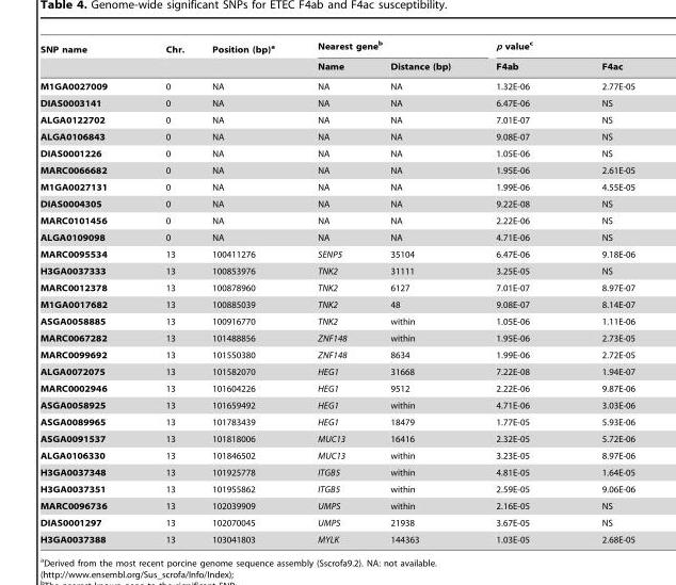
<table><thead><tr><td rowspan="2">SNP name</td><td rowspan="2">Chr.</td><td rowspan="2">Position (bp)<sup>a</sup></td><td colspan="2">Nearest gene<sup>b</sup></td><td colspan="2">p value<sup>c</sup></td></tr><tr><td>Name</td><td>Distance (bp)</td><td>F4ab</td><td>F4ac</td></tr></thead><tbody><tr><td>M1GA0027009</td><td>0</td><td>NA</td><td>NA</td><td>NA</td><td>1.32E-06</td><td>2.77E-05</td></tr><tr><td>DIAS0003141</td><td>0</td><td>NA</td><td>NA</td><td>NA</td><td>6.47E-06</td><td>NS</td></tr><tr><td>ALGA0122702</td><td>0</td><td>NA</td><td>NA</td><td>NA</td><td>7.01E-07</td><td>NS</td></tr><tr><td>ALGA0106843</td><td>0</td><td>NA</td><td>NA</td><td>NA</td><td>9.08E-07</td><td>NS</td></tr><tr><td>DIAS0001226</td><td>0</td><td>NA</td><td>NA</td><td>NA</td><td>1.05E-06</td><td>NS</td></tr><tr><td>MARC0066682</td><td>0</td><td>NA</td><td>NA</td><td>NA</td><td>1.95E-06</td><td>2.61E-05</td></tr><tr><td>M1GA0027131</td><td>0</td><td>NA</td><td>NA</td><td>NA</td><td>1.99E-06</td><td>4.55E-05</td></tr><tr><td>DIAS0004305</td><td>0</td><td>NA</td><td>NA</td><td>NA</td><td>9.22E-08</td><td>NS</td></tr><tr><td>MARC0101456</td><td>0</td><td>NA</td><td>NA</td><td>NA</td><td>2.22E-06</td><td>NS</td></tr><tr><td>ALGA0109098</td><td>0</td><td>NA</td><td>NA</td><td>NA</td><td>4.71E-06</td><td>NS</td></tr><tr><td>MARC0095534</td><td>13</td><td>100411276</td><td>SENP5</td><td>35104</td><td>6.47E-06</td><td>9.18E-06</td></tr><tr><td>H3GA0037333</td><td>13</td><td>100853976</td><td>TNK2</td><td>31111</td><td>3.25E-05</td><td>NS</td></tr><tr><td>MARC0012378</td><td>13</td><td>100878960</td><td>TNK2</td><td>6127</td><td>7.01E-07</td><td>8.97E-07</td></tr><tr><td>M1GA0017682</td><td>13</td><td>100885039</td><td>TNK2</td><td>48</td><td>9.08E-07</td><td>8.14E-07</td></tr><tr><td>ASGA0058885</td><td>13</td><td>100916770</td><td>TNK2</td><td>within</td><td>1.05E-06</td><td>1.11E-06</td></tr><tr><td>MARC0067282</td><td>13</td><td>101488856</td><td>ZNF148</td><td>within</td><td>1.95E-06</td><td>2.73E-05</td></tr><tr><td>MARC0099692</td><td>13</td><td>101550380</td><td>ZNF148</td><td>8634</td><td>1.99E-06</td><td>2.72E-05</td></tr><tr><td>ALGA0072075</td><td>13</td><td>101582070</td><td>HEG1</td><td>31668</td><td>7.22E-08</td><td>1.94E-07</td></tr><tr><td>MARC0002946</td><td>13</td><td>101604226</td><td>HEG1</td><td>9512</td><td>2.22E-06</td><td>9.87E-06</td></tr><tr><td>ASGA0058925</td><td>13</td><td>101659492</td><td>HEG1</td><td>within</td><td>4.71E-06</td><td>3.03E-06</td></tr><tr><td>ASGA0089965</td><td>13</td><td>101783439</td><td>HEG1</td><td>18479</td><td>1.77E-05</td><td>5.93E-06</td></tr><tr><td>ASGA0091537</td><td>13</td><td>101818006</td><td>MUC13</td><td>16416</td><td>2.32E-05</td><td>5.72E-06</td></tr><tr><td>ALGA0106330</td><td>13</td><td>101846502</td><td>MUC13</td><td>within</td><td>3.23E-05</td><td>8.97E-06</td></tr><tr><td>H3GA0037348</td><td>13</td><td>101925778</td><td>ITGB5</td><td>within</td><td>4.81E-05</td><td>1.64E-05</td></tr><tr><td>H3GA0037351</td><td>13</td><td>101955862</td><td>ITGB5</td><td>within</td><td>2.59E-05</td><td>9.06E-06</td></tr><tr><td>MARC0096736</td><td>13</td><td>102039909</td><td>UMPS</td><td>within</td><td>2.16E-05</td><td>NS</td></tr><tr><td>DIAS0001297</td><td>13</td><td>102070045</td><td>UMPS</td><td>21938</td><td>3.67E-05</td><td>NS</td></tr><tr><td>H3GA0037388</td><td>13</td><td>103041803</td><td>MYLK</td><td>144363</td><td>1.03E-05</td><td>2.68E-05</td></tr></tbody></table>